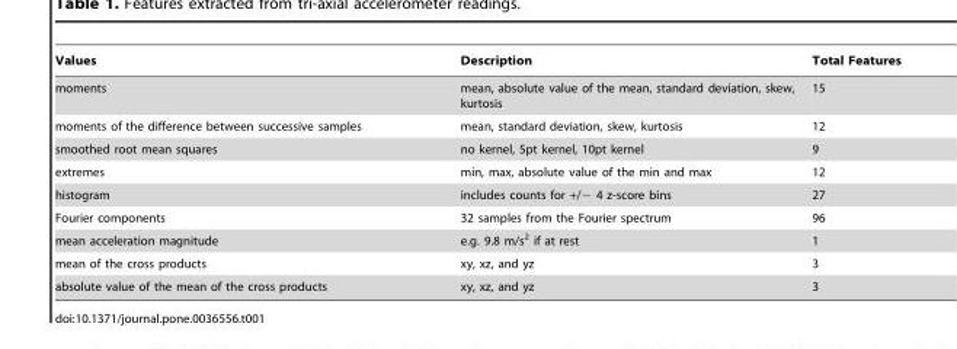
<table><thead><tr><td>Values</td><td>Description</td><td>Total Features</td></tr></thead><tbody><tr><td>moments</td><td>mean, absolute value of the mean, standard deviation, skew, kurtosis</td><td>15</td></tr><tr><td>moments of the difference between successive samples</td><td>mean, standard deviation, skew, kurtosis</td><td>12</td></tr><tr><td>smoothed root mean squares</td><td>no kernel, 5pt kernel, 10pt kernel</td><td>9</td></tr><tr><td>extremes</td><td>min, max, absolute value of the min and max</td><td>12</td></tr><tr><td>histogram</td><td>includes counts for +/− 4 z-score bins</td><td>27</td></tr><tr><td>Fourier components</td><td>32 samples from the Fourier spectrum</td><td>96</td></tr><tr><td>mean acceleration magnitude</td><td>e.g. 9.8 m/s<sup>2</sup> if at rest</td><td>1</td></tr><tr><td>mean of the cross products</td><td>xy, xz, and yz</td><td>3</td></tr><tr><td>absolute value of the mean of the cross products</td><td>xy, xz, and yz</td><td>3</td></tr></tbody></table>